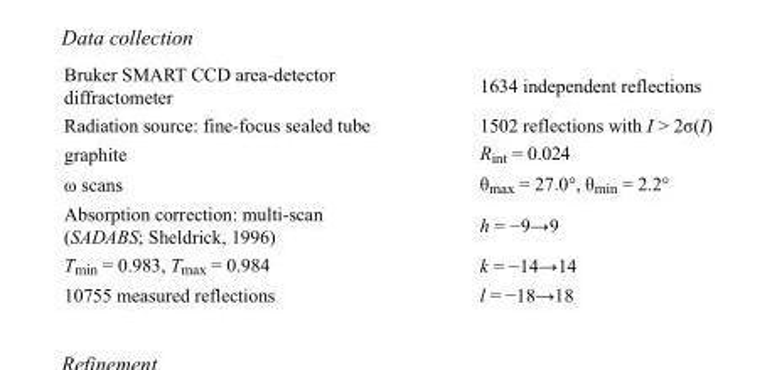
<table><tbody><tr><td>Bruker SMART CCD area-detector diffractometer</td><td>1634 independent reflections</td></tr><tr><td>Radiation source: fine-focus sealed tube</td><td>1502 reflections with I &gt; 2σ(I)</td></tr><tr><td>graphite</td><td>R<sub>int</sub> = 0.024</td></tr><tr><td>ω scans</td><td>θ<sub>max</sub> = 27.0°, θ<sub>min</sub> = 2.2°</td></tr><tr><td>Absorption correction: multi-scan (SADABS; Sheldrick, 1996)</td><td>h = −9→9</td></tr><tr><td>T<sub>min</sub> = 0.983, T<sub>max</sub> = 0.984</td><td>k = −14→14</td></tr><tr><td>10755 measured reflections</td><td>l = −18→18</td></tr></tbody></table>